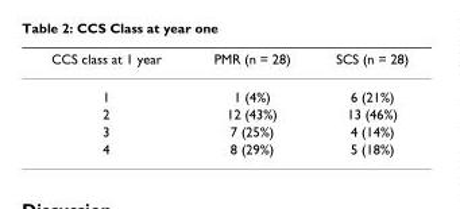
<table><thead><tr><td>CCS class at 1 year</td><td>PMR (n = 28)</td><td>SCS (n = 28)</td></tr></thead><tbody><tr><td>1</td><td>1 (4%)</td><td>6 (21%)</td></tr><tr><td>2</td><td>12 (43%)</td><td>13 (46%)</td></tr><tr><td>3</td><td>7 (25%)</td><td>4 (14%)</td></tr><tr><td>4</td><td>8 (29%)</td><td>5 (18%)</td></tr></tbody></table>